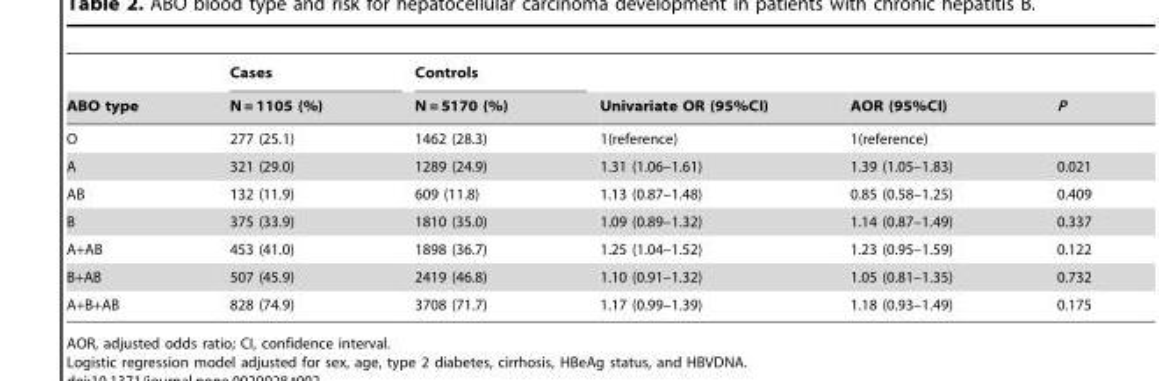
<table><thead><tr><td rowspan="2">ABO type</td><td rowspan="2">Cases N = 1105 (%)</td><td rowspan="2">Controls N = 5170 (%)</td><td rowspan="2">Univariate OR (95%CI)</td><td rowspan="2">AOR (95%CI)</td><td rowspan="2">P</td></tr><tr></tr></thead><tbody><tr><td>O</td><td>277 (25.1)</td><td>1462 (28.3)</td><td>1(reference)</td><td>1(reference)</td><td></td></tr><tr><td>A</td><td>321 (29.0)</td><td>1289 (24.9)</td><td>1.31 (1.06–1.61)</td><td>1.39 (1.05–1.83)</td><td>0.021</td></tr><tr><td>AB</td><td>132 (11.9)</td><td>609 (11.8)</td><td>1.13 (0.87–1.48)</td><td>0.85 (0.58–1.25)</td><td>0.409</td></tr><tr><td>B</td><td>375 (33.9)</td><td>1810 (35.0)</td><td>1.09 (0.89–1.32)</td><td>1.14 (0.87–1.49)</td><td>0.337</td></tr><tr><td>A+AB</td><td>453 (41.0)</td><td>1898 (36.7)</td><td>1.25 (1.04–1.52)</td><td>1.23 (0.95–1.59)</td><td>0.122</td></tr><tr><td>B+AB</td><td>507 (45.9)</td><td>2419 (46.8)</td><td>1.10 (0.91–1.32)</td><td>1.05 (0.81–1.35)</td><td>0.732</td></tr><tr><td>A+B+AB</td><td>828 (74.9)</td><td>3708 (71.7)</td><td>1.17 (0.99–1.39)</td><td>1.18 (0.93–1.49)</td><td>0.175</td></tr></tbody></table>